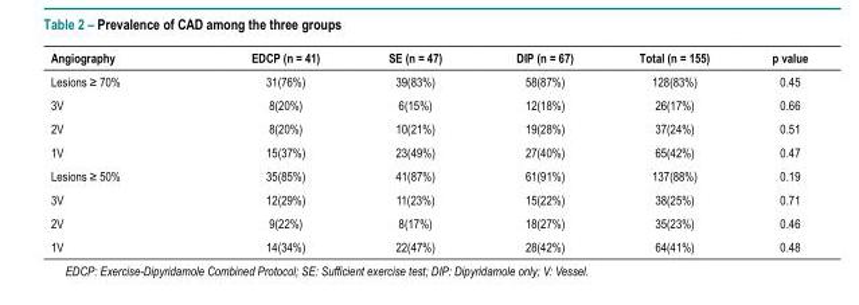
<table><thead><tr><td>Angiography</td><td>EDCP (n = 41)</td><td>SE (n = 47)</td><td>DIP (n = 67)</td><td>Total (n = 155)</td><td>p value</td></tr></thead><tbody><tr><td>Lesions ≥ 70%</td><td>31(76%)</td><td>39(83%)</td><td>58(87%)</td><td>128(83%)</td><td>0.45</td></tr><tr><td>3V</td><td>8(20%)</td><td>6(15%)</td><td>12(18%)</td><td>26(17%)</td><td>0.66</td></tr><tr><td>2V</td><td>8(20%)</td><td>10(21%)</td><td>19(28%)</td><td>37(24%)</td><td>0.51</td></tr><tr><td>1V</td><td>15(37%)</td><td>23(49%)</td><td>27(40%)</td><td>65(42%)</td><td>0.47</td></tr><tr><td>Lesions ≥ 50%</td><td>35(85%)</td><td>41(87%)</td><td>61(91%)</td><td>137(88%)</td><td>0.19</td></tr><tr><td>3V</td><td>12(29%)</td><td>11(23%)</td><td>15(22%)</td><td>38(25%)</td><td>0.71</td></tr><tr><td>2V</td><td>9(22%)</td><td>8(17%)</td><td>18(27%)</td><td>35(23%)</td><td>0.46</td></tr><tr><td>1V</td><td>14(34%)</td><td>22(47%)</td><td>28(42%)</td><td>64(41%)</td><td>0.48</td></tr></tbody></table>